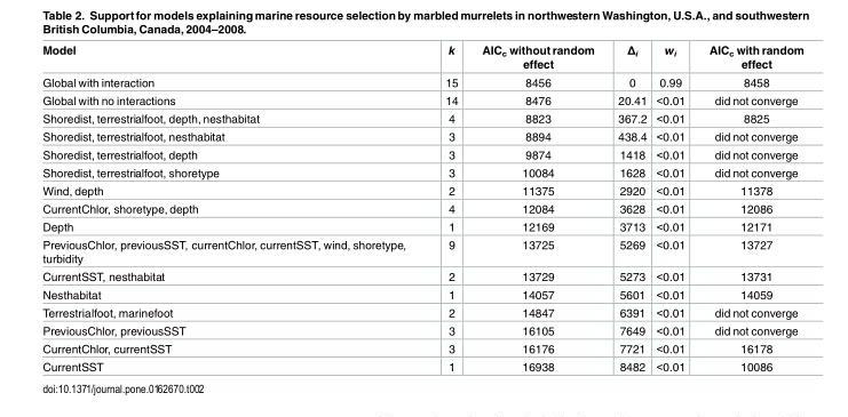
<table><thead><tr><td>Model</td><td>k</td><td>AIC<sub>c</sub> without random effect</td><td>Δ<sub>i</sub></td><td>w<sub>i</sub></td><td>AIC<sub>c</sub> with random effect</td></tr></thead><tbody><tr><td>Global with interaction</td><td>15</td><td>8456</td><td>0</td><td>0.99</td><td>8458</td></tr><tr><td>Global with no interactions</td><td>14</td><td>8476</td><td>20.41</td><td>&lt;0.01</td><td>did not converge</td></tr><tr><td>Shoredist, terrestrialfoot, depth, nesthabitat</td><td>4</td><td>8823</td><td>367.2</td><td>&lt;0.01</td><td>8825</td></tr><tr><td>Shoredist, terrestrialfoot, nesthabitat</td><td>3</td><td>8894</td><td>438.4</td><td>&lt;0.01</td><td>did not converge</td></tr><tr><td>Shoredist, terrestrialfoot, depth</td><td>3</td><td>9874</td><td>1418</td><td>&lt;0.01</td><td>did not converge</td></tr><tr><td>Shoredist, terrestrialfoot, shoretype</td><td>3</td><td>10084</td><td>1628</td><td>&lt;0.01</td><td>did not converge</td></tr><tr><td>Wind, depth</td><td>2</td><td>11375</td><td>2920</td><td>&lt;0.01</td><td>11378</td></tr><tr><td>CurrentChlor, shoretype, depth</td><td>4</td><td>12084</td><td>3628</td><td>&lt;0.01</td><td>12086</td></tr><tr><td>Depth</td><td>1</td><td>12169</td><td>3713</td><td>&lt;0.01</td><td>12171</td></tr><tr><td>PreviousChlor, previousSST, currentChlor, currentSST, wind, shoretype, turbidity</td><td>9</td><td>13725</td><td>5269</td><td>&lt;0.01</td><td>13727</td></tr><tr><td>CurrentSST, nesthabitat</td><td>2</td><td>13729</td><td>5273</td><td>&lt;0.01</td><td>13731</td></tr><tr><td>Nesthabitat</td><td>1</td><td>14057</td><td>5601</td><td>&lt;0.01</td><td>14059</td></tr><tr><td>Terrestrialfoot, marinefoot</td><td>2</td><td>14847</td><td>6391</td><td>&lt;0.01</td><td>did not converge</td></tr><tr><td>PreviousChlor, previousSST</td><td>3</td><td>16105</td><td>7649</td><td>&lt;0.01</td><td>did not converge</td></tr><tr><td>CurrentChlor, currentSST</td><td>3</td><td>16176</td><td>7721</td><td>&lt;0.01</td><td>16178</td></tr><tr><td>CurrentSST</td><td>1</td><td>16938</td><td>8482</td><td>&lt;0.01</td><td>10086</td></tr></tbody></table>